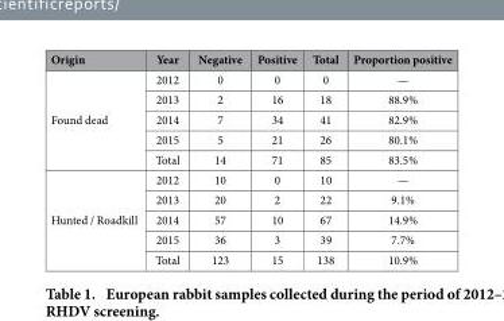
<table><thead><tr><td>Origin</td><td>Year</td><td>Negative</td><td>Positive</td><td>Total</td><td>Proportion positive</td></tr></thead><tbody><tr><td rowspan="5">Found dead</td><td>2012</td><td>0</td><td>0</td><td>0</td><td>—</td></tr><tr><td>2013</td><td>2</td><td>16</td><td>18</td><td>88.9%</td></tr><tr><td>2014</td><td>7</td><td>34</td><td>41</td><td>82.9%</td></tr><tr><td>2015</td><td>5</td><td>21</td><td>26</td><td>80.1%</td></tr><tr><td>Total</td><td>14</td><td>71</td><td>85</td><td>83.5%</td></tr><tr><td rowspan="5">Hunted / Roadkill</td><td>2012</td><td>10</td><td>0</td><td>10</td><td>—</td></tr><tr><td>2013</td><td>20</td><td>2</td><td>22</td><td>9.1%</td></tr><tr><td>2014</td><td>57</td><td>10</td><td>67</td><td>14.9%</td></tr><tr><td>2015</td><td>36</td><td>3</td><td>39</td><td>7.7%</td></tr><tr><td>Total</td><td>123</td><td>15</td><td>138</td><td>10.9%</td></tr></tbody></table>